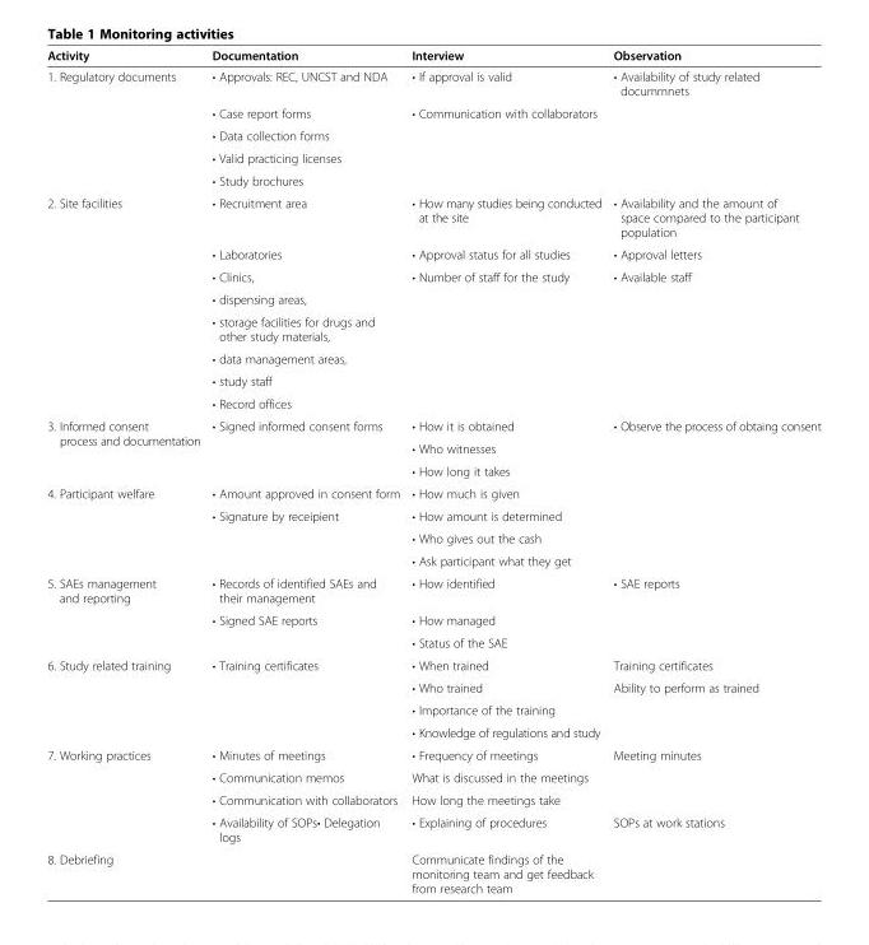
<table><thead><tr><td>Activity</td><td>Documentation</td><td>Interview</td><td>Observation</td></tr></thead><tbody><tr><td rowspan="5">1. Regulatory documents</td><td>• Approvals: REC, UNCST and NDA</td><td>• If approval is valid</td><td>• Availability of study related docummnets</td></tr><tr><td>• Case report forms</td><td rowspan="4">• Communication with collaborators</td><td rowspan="4"></td></tr><tr><td>• Data collection forms</td></tr><tr><td>• Valid practicing licenses</td></tr><tr><td>• Study brochures</td></tr><tr><td rowspan="8">2. Site facilities</td><td>• Recruitment area</td><td>• How many studies being conducted at the site</td><td>• Availability and the amount of space compared to the participant population</td></tr><tr><td>• Laboratories</td><td>• Approval status for all studies</td><td>• Approval letters</td></tr><tr><td>• Clinics,</td><td>• Number of staff for the study</td><td>• Available staff</td></tr><tr><td>• dispensing areas,</td><td></td><td></td></tr><tr><td>• storage facilities for drugs and other study materials,</td><td></td><td></td></tr><tr><td>• data management areas,</td><td></td><td></td></tr><tr><td>• study staff</td><td></td><td></td></tr><tr><td>• Record offices</td><td></td><td></td></tr><tr><td rowspan="3">3. Informed consent process and documentation</td><td rowspan="3">• Signed informed consent forms</td><td>• How it is obtained</td><td rowspan="3">• Observe the process of obtaing consent</td></tr><tr><td>• Who witnesses</td></tr><tr><td>• How long it takes</td></tr><tr><td rowspan="4">4. Participant welfare</td><td>• Amount approved in consent form</td><td>• How much is given</td><td></td></tr><tr><td rowspan="3">• Signature by receipient</td><td>• How amount is determined</td><td></td></tr><tr><td>• Who gives out the cash</td><td></td></tr><tr><td>• Ask participant what they get</td><td></td></tr><tr><td rowspan="3">5. SAEs management and reporting</td><td>• Records of identified SAEs and their management</td><td>• How identified</td><td rowspan="3">• SAE reports</td></tr><tr><td rowspan="2">• Signed SAE reports</td><td>• How managed</td></tr><tr><td>• Status of the SAE</td></tr><tr><td rowspan="4">6. Study related training</td><td rowspan="4">• Training certificates</td><td>• When trained</td><td>Training certificates</td></tr><tr><td>• Who trained</td><td>Ability to perform as trained</td></tr><tr><td>• Importance of the training</td><td></td></tr><tr><td>• Knowledge of regulations and study</td><td></td></tr><tr><td rowspan="4">7. Working practices</td><td>• Minutes of meetings</td><td>• Frequency of meetings</td><td>Meeting minutes</td></tr><tr><td>• Communication memos</td><td>What is discussed in the meetings</td><td></td></tr><tr><td>• Communication with collaborators</td><td>How long the meetings take</td><td></td></tr><tr><td>• Availability of SOPs• Delegation logs</td><td>• Explaining of procedures</td><td>SOPs at work stations</td></tr><tr><td>8. Debriefing</td><td></td><td>Communicate findings of the monitoring team and get feedback from research team</td><td></td></tr></tbody></table>